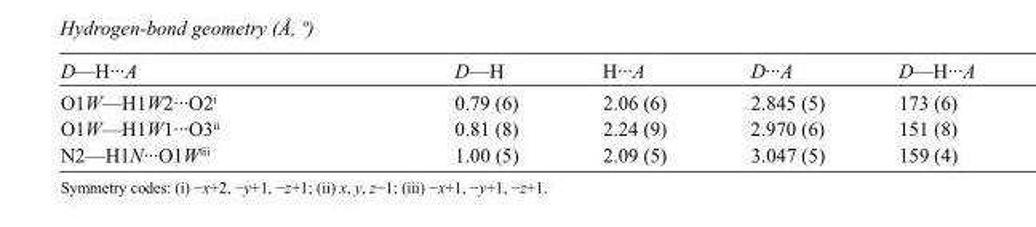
<table><tbody><tr><td>D—H···A</td><td>D—H</td><td>H···A</td><td>D···A</td><td>D—H···A</td></tr><tr><td>O1W—H1W2···O2<sup>i</sup></td><td>0.79 (6)</td><td>2.06 (6)</td><td>2.845 (5)</td><td>173 (6)</td></tr><tr><td>O1W—H1W1···O3<sup>ii</sup></td><td>0.81 (8)</td><td>2.24 (9)</td><td>2.970 (6)</td><td>151 (8)</td></tr><tr><td>N2—H1N···O1W<sup>iii</sup></td><td>1.00 (5)</td><td>2.09 (5)</td><td>3.047 (5)</td><td>159 (4)</td></tr></tbody></table>